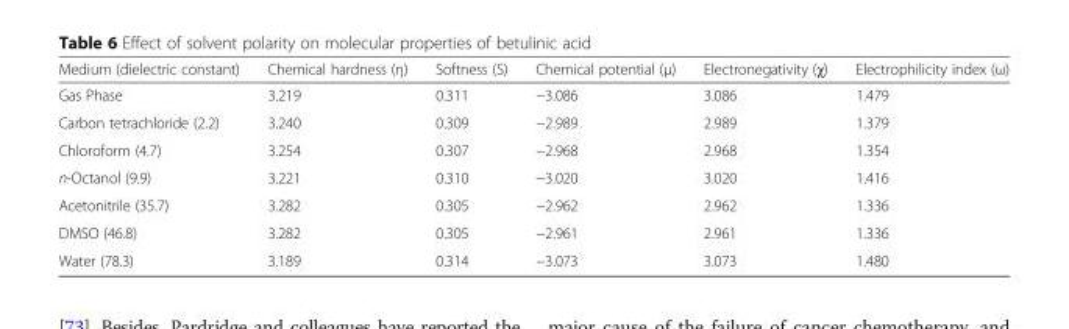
<table><thead><tr><td>Medium (dielectric constant)</td><td>Chemical hardness (η)</td><td>Softness (S)</td><td>Chemical potential (μ)</td><td>Electronegativity (χ)</td><td>Electrophilicity index (ω)</td></tr></thead><tbody><tr><td>Gas Phase</td><td>3.219</td><td>0.311</td><td>−3.086</td><td>3.086</td><td>1.479</td></tr><tr><td>Carbon tetrachloride (2.2)</td><td>3.240</td><td>0.309</td><td>−2.989</td><td>2.989</td><td>1.379</td></tr><tr><td>Chloroform (4.7)</td><td>3.254</td><td>0.307</td><td>−2.968</td><td>2.968</td><td>1.354</td></tr><tr><td>n-Octanol (9.9)</td><td>3.221</td><td>0.310</td><td>−3.020</td><td>3.020</td><td>1.416</td></tr><tr><td>Acetonitrile (35.7)</td><td>3.282</td><td>0.305</td><td>−2.962</td><td>2.962</td><td>1.336</td></tr><tr><td>DMSO (46.8)</td><td>3.282</td><td>0.305</td><td>−2.961</td><td>2.961</td><td>1.336</td></tr><tr><td>Water (78.3)</td><td>3.189</td><td>0.314</td><td>−3.073</td><td>3.073</td><td>1.480</td></tr></tbody></table>